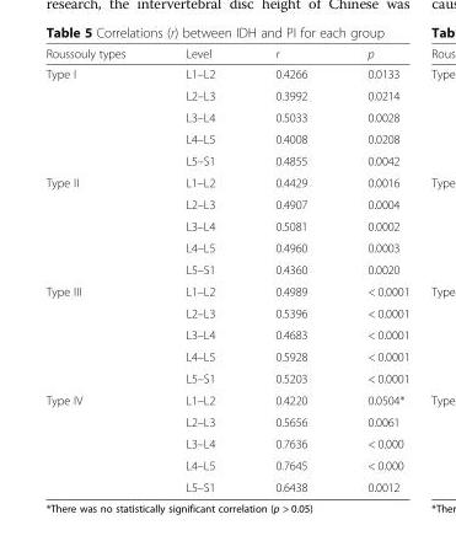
<table><thead><tr><td>Roussouly types</td><td>Level</td><td>r</td><td>p</td></tr></thead><tbody><tr><td rowspan="5">Type I</td><td>L1–L2</td><td>0.4266</td><td>0.0133</td></tr><tr><td>L2–L3</td><td>0.3992</td><td>0.0214</td></tr><tr><td>L3–L4</td><td>0.5033</td><td>0.0028</td></tr><tr><td>L4–L5</td><td>0.4008</td><td>0.0208</td></tr><tr><td>L5–S1</td><td>0.4855</td><td>0.0042</td></tr><tr><td rowspan="5">Type II</td><td>L1–L2</td><td>0.4429</td><td>0.0016</td></tr><tr><td>L2–L3</td><td>0.4907</td><td>0.0004</td></tr><tr><td>L3–L4</td><td>0.5081</td><td>0.0002</td></tr><tr><td>L4–L5</td><td>0.4960</td><td>0.0003</td></tr><tr><td>L5–S1</td><td>0.4360</td><td>0.0020</td></tr><tr><td rowspan="5">Type III</td><td>L1–L2</td><td>0.4989</td><td>&lt; 0.0001</td></tr><tr><td>L2–L3</td><td>0.5396</td><td>&lt; 0.0001</td></tr><tr><td>L3–L4</td><td>0.4683</td><td>&lt; 0.0001</td></tr><tr><td>L4–L5</td><td>0.5928</td><td>&lt; 0.0001</td></tr><tr><td>L5–S1</td><td>0.5203</td><td>&lt; 0.0001</td></tr><tr><td rowspan="5">Type IV</td><td>L1–L2</td><td>0.4220</td><td>0.0504*</td></tr><tr><td>L2–L3</td><td>0.5656</td><td>0.0061</td></tr><tr><td>L3–L4</td><td>0.7636</td><td>&lt; 0.000</td></tr><tr><td>L4–L5</td><td>0.7645</td><td>&lt; 0.000</td></tr><tr><td>L5–S1</td><td>0.6438</td><td>0.0012</td></tr></tbody></table>